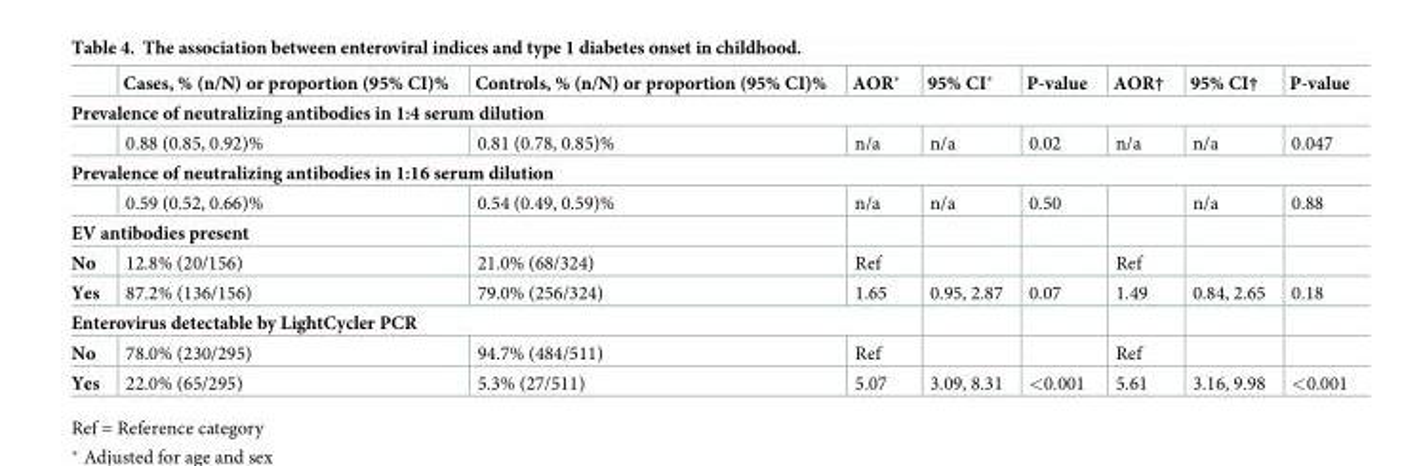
<table><thead><tr><td></td><td>Cases, % (n/N) or proportion (95% CI)%</td><td>Controls, % (n/N) or proportion (95% CI)%</td><td>AOR*</td><td>95% CI*</td><td>P-value</td><td>AOR†</td><td>95% CI†</td><td>P-value</td></tr></thead><tbody><tr><td colspan="9">Prevalence of neutralizing antibodies in 1:4 serum dilution</td></tr><tr><td></td><td>0.88 (0.85, 0.92)%</td><td>0.81 (0.78, 0.85)%</td><td>n/a</td><td>n/a</td><td>0.02</td><td>n/a</td><td>n/a</td><td>0.047</td></tr><tr><td colspan="9">Prevalence of neutralizing antibodies in 1:16 serum dilution</td></tr><tr><td></td><td>0.59 (0.52, 0.66)%</td><td>0.54 (0.49, 0.59)%</td><td>n/a</td><td>n/a</td><td>0.50</td><td></td><td>n/a</td><td>0.88</td></tr><tr><td colspan="9">EV antibodies present</td></tr><tr><td>No</td><td>12.8% (20/156)</td><td>21.0% (68/324)</td><td>Ref</td><td></td><td></td><td>Ref</td><td></td><td></td></tr><tr><td>Yes</td><td>87.2% (136/156)</td><td>79.0% (256/324)</td><td>1.65</td><td>0.95, 2.87</td><td>0.07</td><td>1.49</td><td>0.84, 2.65</td><td>0.18</td></tr><tr><td colspan="9">Enterovirus detectable by LightCycler PCR</td></tr><tr><td>No</td><td>78.0% (230/295)</td><td>94.7% (484/511)</td><td>Ref</td><td></td><td></td><td>Ref</td><td></td><td></td></tr><tr><td>Yes</td><td>22.0% (65/295)</td><td>5.3% (27/511)</td><td>5.07</td><td>3.09, 8.31</td><td>&lt;0.001</td><td>5.61</td><td>3.16, 9.98</td><td>&lt;0.001</td></tr></tbody></table>